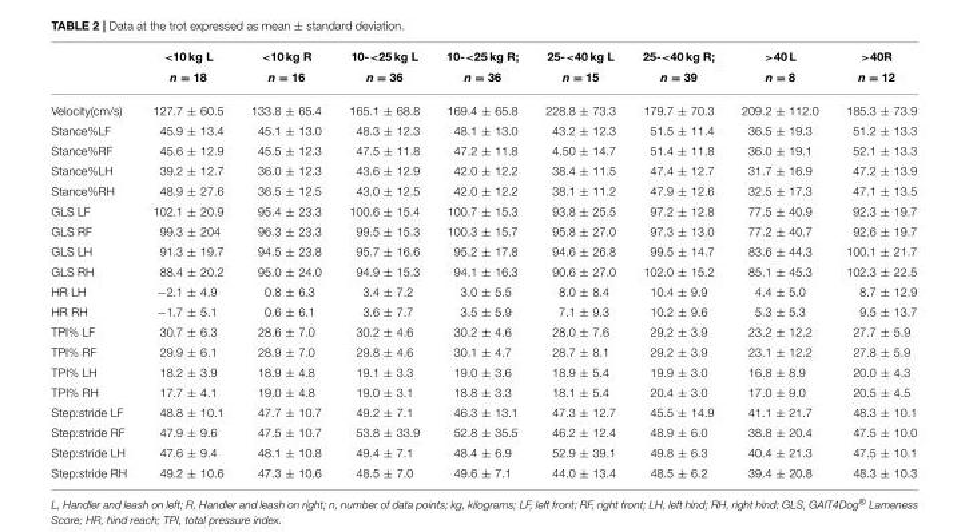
<table><thead><tr><td rowspan="2"></td><td rowspan="2">&lt;10 kg L n = 18</td><td rowspan="2">&lt;10 kg R n = 16</td><td rowspan="2">10-&lt;25 kg L n = 36</td><td rowspan="2">10-&lt;25 kg R; n = 36</td><td rowspan="2">25-&lt;40 kg L n = 15</td><td rowspan="2">25-&lt;40 kg R; n = 39</td><td rowspan="2">&gt;40 L n = 8</td><td rowspan="2">&gt;40R n = 12</td></tr><tr></tr></thead><tbody><tr><td>Velocity(cm/s)</td><td>127.7 ± 60.5</td><td>133.8 ± 65.4</td><td>165.1 ± 68.8</td><td>169.4 ± 65.8</td><td>228.8 ± 73.3</td><td>179.7 ± 70.3</td><td>209.2 ± 112.0</td><td>185.3 ± 73.9</td></tr><tr><td>Stance%LF</td><td>45.9 ± 13.4</td><td>45.1 ± 13.0</td><td>48.3 ± 12.3</td><td>48.1 ± 13.0</td><td>43.2 ± 12.3</td><td>51.5 ± 11.4</td><td>36.5 ± 19.3</td><td>51.2 ± 13.3</td></tr><tr><td>Stance%RF</td><td>45.6 ± 12.9</td><td>45.5 ± 12.3</td><td>47.5 ± 11.8</td><td>47.2 ± 11.8</td><td>4.50 ± 14.7</td><td>51.4 ± 11.8</td><td>36.0 ± 19.1</td><td>52.1 ± 13.3</td></tr><tr><td>Stance%LH</td><td>39.2 ± 12.7</td><td>36.0 ± 12.3</td><td>43.6 ± 12.9</td><td>42.0 ± 12.2</td><td>38.4 ± 11.5</td><td>47.4 ± 12.7</td><td>31.7 ± 16.9</td><td>47.2 ± 13.9</td></tr><tr><td>Stance%RH</td><td>48.9 ± 27.6</td><td>36.5 ± 12.5</td><td>43.0 ± 12.5</td><td>42.0 ± 12.2</td><td>38.1 ± 11.2</td><td>47.9 ± 12.6</td><td>32.5 ± 17.3</td><td>47.1 ± 13.5</td></tr><tr><td>GLS LF</td><td>102.1 ± 20.9</td><td>95.4 ± 23.3</td><td>100.6 ± 15.4</td><td>100.7 ± 15.3</td><td>93.8 ± 25.5</td><td>97.2 ± 12.8</td><td>77.5 ± 40.9</td><td>92.3 ± 19.7</td></tr><tr><td>GLS RF</td><td>99.3 ± 204</td><td>96.3 ± 23.3</td><td>99.5 ± 15.3</td><td>100.3 ± 15.7</td><td>95.8 ± 27.0</td><td>97.3 ± 13.0</td><td>77.2 ± 40.7</td><td>92.6 ± 19.7</td></tr><tr><td>GLS LH</td><td>91.3 ± 19.7</td><td>94.5 ± 23.8</td><td>95.7 ± 16.6</td><td>95.2 ± 17.8</td><td>94.6 ± 26.8</td><td>99.5 ± 14.7</td><td>83.6 ± 44.3</td><td>100.1 ± 21.7</td></tr><tr><td>GLS RH</td><td>88.4 ± 20.2</td><td>95.0 ± 24.0</td><td>94.9 ± 15.3</td><td>94.1 ± 16.3</td><td>90.6 ± 27.0</td><td>102.0 ± 15.2</td><td>85.1 ± 45.3</td><td>102.3 ± 22.5</td></tr><tr><td>HR LH</td><td>−2.1 ± 4.9</td><td>0.8 ± 6.3</td><td>3.4 ± 7.2</td><td>3.0 ± 5.5</td><td>8.0 ± 8.4</td><td>10.4 ± 9.9</td><td>4.4 ± 5.0</td><td>8.7 ± 12.9</td></tr><tr><td>HR RH</td><td>−1.7 ± 5.1</td><td>0.6 ± 6.1</td><td>3.6 ± 7.7</td><td>3.5 ± 5.9</td><td>7.1 ± 9.3</td><td>10.2 ± 9.6</td><td>5.3 ± 5.3</td><td>9.5 ± 13.7</td></tr><tr><td>TPI% LF</td><td>30.7 ± 6.3</td><td>28.6 ± 7.0</td><td>30.2 ± 4.6</td><td>30.2 ± 4.6</td><td>28.0 ± 7.6</td><td>29.2 ± 3.9</td><td>23.2 ± 12.2</td><td>27.7 ± 5.9</td></tr><tr><td>TPI% RF</td><td>29.9 ± 6.1</td><td>28.9 ± 7.0</td><td>29.8 ± 4.6</td><td>30.1 ± 4.7</td><td>28.7 ± 8.1</td><td>29.2 ± 3.9</td><td>23.1 ± 12.2</td><td>27.8 ± 5.9</td></tr><tr><td>TPI% LH</td><td>18.2 ± 3.9</td><td>18.9 ± 4.8</td><td>19.1 ± 3.3</td><td>19.0 ± 3.6</td><td>18.9 ± 5.4</td><td>19.9 ± 3.0</td><td>16.8 ± 8.9</td><td>20.0 ± 4.3</td></tr><tr><td>TPI% RH</td><td>17.7 ± 4.1</td><td>19.0 ± 4.8</td><td>19.0 ± 3.1</td><td>18.8 ± 3.3</td><td>18.1 ± 5.4</td><td>20.4 ± 3.0</td><td>17.0 ± 9.0</td><td>20.5 ± 4.5</td></tr><tr><td>Step:stride LF</td><td>48.8 ± 10.1</td><td>47.7 ± 10.7</td><td>49.2 ± 7.1</td><td>46.3 ± 13.1</td><td>47.3 ± 12.7</td><td>45.5 ± 14.9</td><td>41.1 ± 21.7</td><td>48.3 ± 10.1</td></tr><tr><td>Step:stride RF</td><td>47.9 ± 9.6</td><td>47.5 ± 10.7</td><td>53.8 ± 33.9</td><td>52.8 ± 35.5</td><td>46.2 ± 12.4</td><td>48.9 ± 6.0</td><td>38.8 ± 20.4</td><td>47.5 ± 10.0</td></tr><tr><td>Step:stride LH</td><td>47.6 ± 9.4</td><td>48.1 ± 10.8</td><td>49.4 ± 7.1</td><td>48.4 ± 6.9</td><td>52.9 ± 39.1</td><td>49.8 ± 6.3</td><td>40.4 ± 21.3</td><td>47.5 ± 10.1</td></tr><tr><td>Step:stride RH</td><td>49.2 ± 10.6</td><td>47.3 ± 10.6</td><td>48.5 ± 7.0</td><td>49.6 ± 7.1</td><td>44.0 ± 13.4</td><td>48.5 ± 6.2</td><td>39.4 ± 20.8</td><td>48.3 ± 10.3</td></tr></tbody></table>